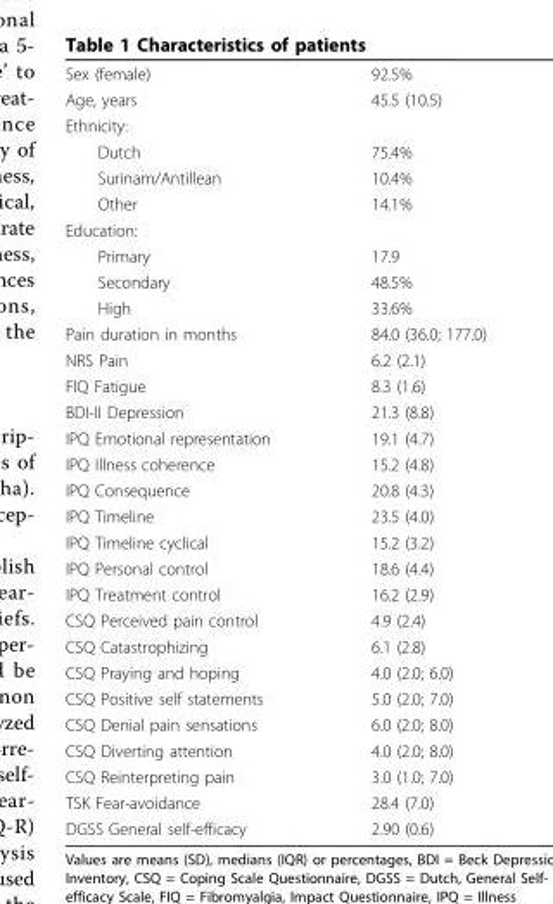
<table><tbody><tr><td>Sex (female)</td><td>92.5%</td></tr><tr><td>Age, years</td><td>45.5 (10.5)</td></tr><tr><td colspan="2">Ethnicity:</td></tr><tr><td>Dutch</td><td>75.4%</td></tr><tr><td>Surinam/Antillean</td><td>10.4%</td></tr><tr><td>Other</td><td>14.1%</td></tr><tr><td colspan="2">Education:</td></tr><tr><td>Primary</td><td>17.9</td></tr><tr><td>Secondary</td><td>48.5%</td></tr><tr><td>High</td><td>33.6%</td></tr><tr><td>Pain duration in months</td><td>84.0 (36.0; 177.0)</td></tr><tr><td>NRS Pain</td><td>6.2 (2.1)</td></tr><tr><td>FIQ Fatigue</td><td>8.3 (1.6)</td></tr><tr><td>BDI-II Depression</td><td>21.3 (8.8)</td></tr><tr><td>IPQ Emotional representation</td><td>19.1 (4.7)</td></tr><tr><td>IPQ Illness coherence</td><td>15.2 (4.8)</td></tr><tr><td>IPQ Consequence</td><td>20.8 (4.3)</td></tr><tr><td>IPQ Timeline</td><td>23.5 (4.0)</td></tr><tr><td>IPQ Timeline cyclical</td><td>15.2 (3.2)</td></tr><tr><td>IPQ Personal control</td><td>18.6 (4.4)</td></tr><tr><td>IPQ Treatment control</td><td>16.2 (2.9)</td></tr><tr><td>CSQ Perceived pain control</td><td>4.9 (2.4)</td></tr><tr><td>CSQ Catastrophizing</td><td>6.1 (2.8)</td></tr><tr><td>CSQ Praying and hoping</td><td>4.0 (2.0; 6.0)</td></tr><tr><td>CSQ Positive self statements</td><td>5.0 (2.0; 7.0)</td></tr><tr><td>CSQ Denial pain sensations</td><td>6.0 (2.0; 8.0)</td></tr><tr><td>CSQ Diverting attention</td><td>4.0 (2.0; 8.0)</td></tr><tr><td>CSQ Reinterpreting pain</td><td>3.0 (1.0; 7.0)</td></tr><tr><td>TSK Fear-avoidance</td><td>28.4 (7.0)</td></tr><tr><td>DGSS General self-efficacy</td><td>2.90 (0.6)</td></tr></tbody></table>